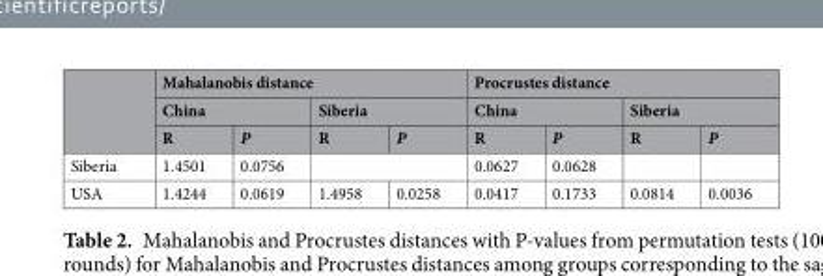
<table><thead><tr><td rowspan="3"></td><td colspan="4">Mahalanobis distance</td><td colspan="4">Procrustes distance</td></tr><tr><td colspan="2">China</td><td colspan="2">Siberia</td><td colspan="2">China</td><td colspan="2">Siberia</td></tr><tr><td>R</td><td>P</td><td>R</td><td>P</td><td>R</td><td>P</td><td>R</td><td>P</td></tr></thead><tbody><tr><td>Siberia</td><td>1.4501</td><td>0.0756</td><td colspan="2"></td><td>0.0627</td><td>0.0628</td><td></td><td></td></tr><tr><td>USA</td><td>1.4244</td><td>0.0619</td><td>1.4958</td><td>0.0258</td><td>0.0417</td><td>0.1733</td><td>0.0814</td><td>0.0036</td></tr></tbody></table>